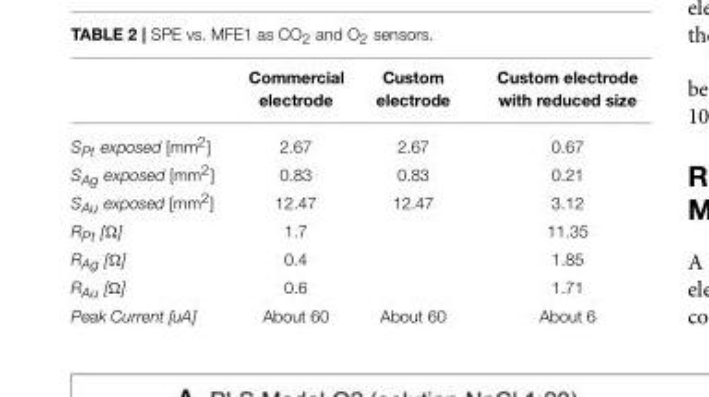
<table><thead><tr><td></td><td>Commercial electrode</td><td>Custom electrode</td><td>Custom electrode with reduced size</td></tr></thead><tbody><tr><td>SPt exposed [mm2]</td><td>2.67</td><td>2.67</td><td>0.67</td></tr><tr><td>SAg exposed [mm2]</td><td>0.83</td><td>0.83</td><td>0.21</td></tr><tr><td>SAu exposed [mm2]</td><td>12.47</td><td>12.47</td><td>3.12</td></tr><tr><td>RPt [Ω]</td><td>1.7</td><td></td><td>11.35</td></tr><tr><td>RAg [Ω]</td><td>0.4</td><td></td><td>1.85</td></tr><tr><td>RAu [Ω]</td><td>0.6</td><td></td><td>1.71</td></tr><tr><td>Peak Current [uA]</td><td>About 60</td><td>About 60</td><td>About 6</td></tr></tbody></table>